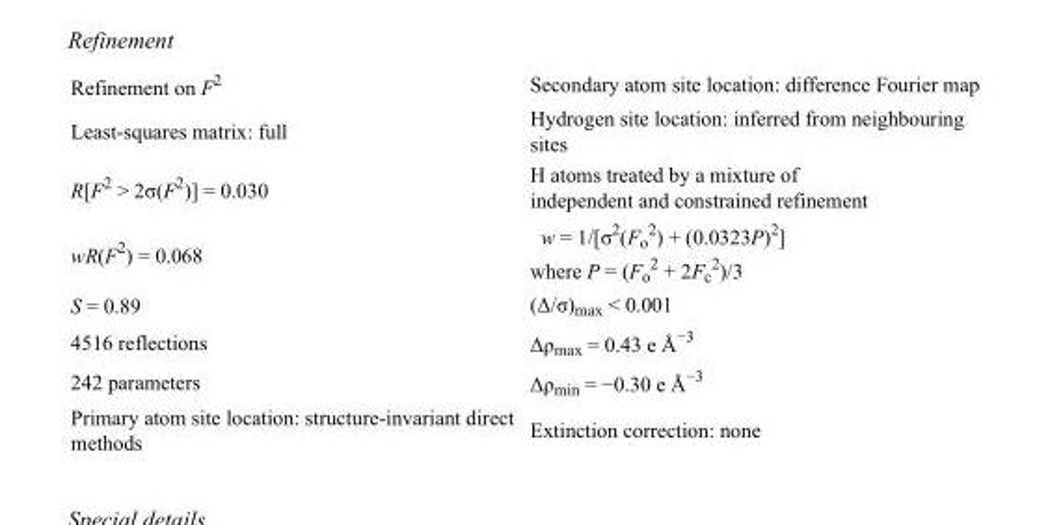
<table><tbody><tr><td>Refinement on F<sup>2</sup></td><td>Secondary atom site location: difference Fourier map</td></tr><tr><td>Least-squares matrix: full</td><td>Hydrogen site location: inferred from neighbouring sites</td></tr><tr><td>R[F<sup>2</sup> &gt; 2σ(F<sup>2</sup>)] = 0.030</td><td>H atoms treated by a mixture of independent and constrained refinement</td></tr><tr><td>wR(F<sup>2</sup>) = 0.068</td><td>w = 1/[σ<sup>2</sup>(F<sub>o</sub> <sup>2</sup>) + (0.0323P)<sup>2</sup>] where P = (F<sub>o</sub> <sup>2</sup> + 2F<sub>c</sub> <sup>2</sup>)/3</td></tr><tr><td>S = 0.89</td><td>(Δ/σ)<sub>max</sub> &lt; 0.001</td></tr><tr><td>4516 reflections</td><td>Δρ<sub>max</sub> = 0.43 e Å<sup>−3</sup></td></tr><tr><td>242 parameters</td><td>Δρ<sub>min</sub> = −0.30 e Å<sup>−3</sup></td></tr><tr><td>Primary atom site location: structure-invariant direct methods</td><td>Extinction correction: none</td></tr></tbody></table>